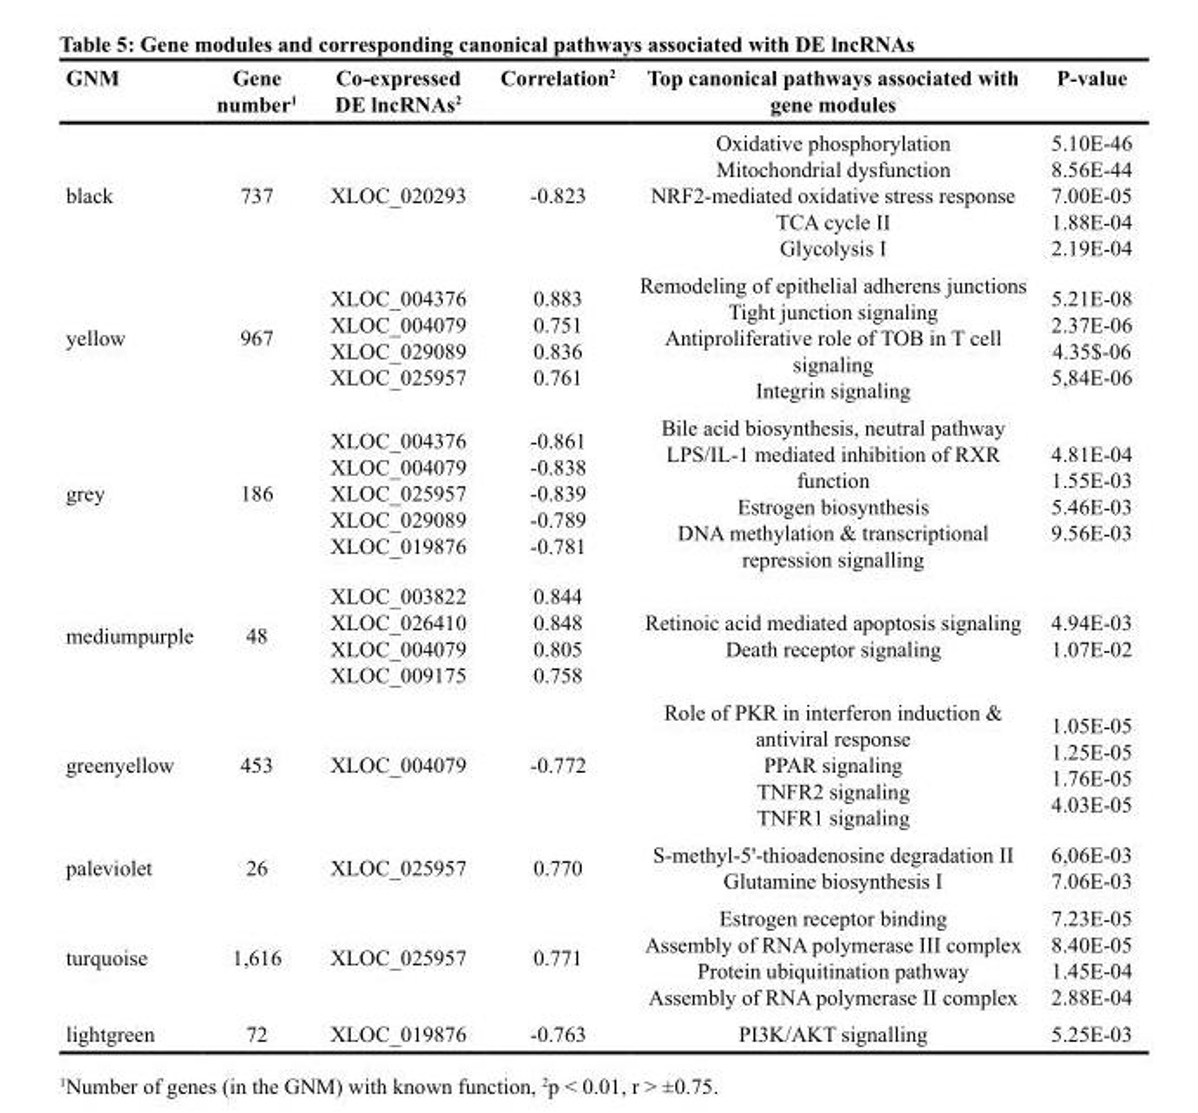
<table><thead><tr><td>GNM</td><td>Gene number<sup>1</sup></td><td>Co-expressed DE lncRNAs<sup>2</sup></td><td>Correlation<sup>2</sup></td><td>Top canonical pathways associated with gene modules</td><td>P-value</td></tr></thead><tbody><tr><td>black</td><td>737</td><td>XLOC_020293</td><td>-0.823</td><td>Oxidative phosphorylation Mitochondrial dysfunction NRF2-mediated oxidative stress response TCA cycle II Glycolysis I</td><td>5.10E-46 8.56E-44 7.00E-05 1.88E-04 2.19E-04</td></tr><tr><td>yellow</td><td>967</td><td>XLOC_004376 XLOC_004079 XLOC_029089 XLOC_025957</td><td>0.883 0.751 0.836 0.761</td><td>Remodeling of epithelial adherens junctions Tight junction signaling Antiproliferative role of TOB in T cell signaling Integrin signaling</td><td>5.21E-08 2.37E-06 4.35$-06 5,84E-06</td></tr><tr><td>grey</td><td>186</td><td>XLOC_004376 XLOC_004079 XLOC_025957 XLOC_029089 XLOC_019876</td><td>-0.861 -0.838 -0.839 -0.789 -0.781</td><td>Bile acid biosynthesis, neutral pathway LPS/IL-1 mediated inhibition of RXR function Estrogen biosynthesis DNA methylation &amp; transcriptional repression signalling</td><td>4.81E-04 1.55E-03 5.46E-03 9.56E-03</td></tr><tr><td>mediumpurple</td><td>48</td><td>XLOC_003822 XLOC_026410 XLOC_004079 XLOC_009175</td><td>0.844 0.848 0.805 0.758</td><td>Retinoic acid mediated apoptosis signaling Death receptor signaling</td><td>4.94E-03 1.07E-02</td></tr><tr><td>greenyellow</td><td>453</td><td>XLOC_004079</td><td>-0.772</td><td>Role of PKR in interferon induction &amp; antiviral response PPAR signaling TNFR2 signaling TNFR1 signaling</td><td>1.05E-05 1.25E-05 1.76E-05 4.03E-05</td></tr><tr><td>paleviolet</td><td>26</td><td>XLOC_025957</td><td>0.770</td><td>S-methyl-5&#x27;-thioadenosine degradation II Glutamine biosynthesis I</td><td>6,06E-03 7.06E-03</td></tr><tr><td>turquoise</td><td>1,616</td><td>XLOC_025957</td><td>0.771</td><td>Estrogen receptor binding Assembly of RNA polymerase III complex Protein ubiquitination pathway Assembly of RNA polymerase II complex</td><td>7.23E-05 8.40E-05 1.45E-04 2.88E-04</td></tr><tr><td>lightgreen</td><td>72</td><td>XLOC_019876</td><td>-0.763</td><td>PI3K/AKT signalling</td><td>5.25E-03</td></tr></tbody></table>